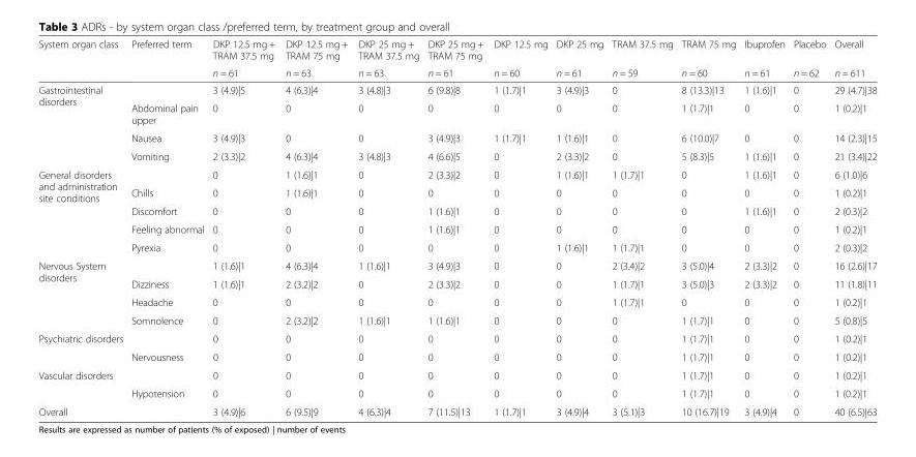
<table><thead><tr><td rowspan="2">System organ class</td><td rowspan="2">Preferred term</td><td rowspan="2">DKP 12.5 mg + TRAM 37.5 mg n = 61</td><td rowspan="2">DKP 12.5 mg + TRAM 75 mg n = 63</td><td rowspan="2">DKP 25 mg + TRAM 37.5 mg n = 63</td><td rowspan="2">DKP 25 mg + TRAM 75 mg n = 61</td><td rowspan="2">DKP 12.5 mg n = 60</td><td rowspan="2">DKP 25 mg n = 61</td><td rowspan="2">TRAM 37.5 mg n = 59</td><td rowspan="2">TRAM 75 mg n = 60</td><td rowspan="2">Ibuprofen n = 61</td><td rowspan="2">Placebo n = 62</td><td rowspan="2">Overall n = 611</td></tr><tr></tr></thead><tbody><tr><td rowspan="4">Gastrointestinal disorders</td><td></td><td>3 (4.9)|5</td><td>4 (6.3)|4</td><td>3 (4.8)|3</td><td>6 (9.8)|8</td><td>1 (1.7)|1</td><td>3 (4.9)|3</td><td>0</td><td>8 (13.3)|13</td><td>1 (1.6)|1</td><td>0</td><td>29 (4.7)|38</td></tr><tr><td>Abdominal pain upper</td><td>0</td><td>0</td><td>0</td><td>0</td><td>0</td><td>0</td><td>0</td><td>1 (1.7)|1</td><td>0</td><td>0</td><td>1 (0.2)|1</td></tr><tr><td>Nausea</td><td>3 (4.9)|3</td><td>0</td><td>0</td><td>3 (4.9)|3</td><td>1 (1.7)|1</td><td>1 (1.6)|1</td><td>0</td><td>6 (10.0)|7</td><td>0</td><td>0</td><td>14 (2.3)|15</td></tr><tr><td>Vomiting</td><td>2 (3.3)|2</td><td>4 (6.3)|4</td><td>3 (4.8)|3</td><td>4 (6.6)|5</td><td>0</td><td>2 (3.3)|2</td><td>0</td><td>5 (8.3)|5</td><td>1 (1.6)|1</td><td>0</td><td>21 (3.4)|22</td></tr><tr><td rowspan="5">General disorders and administration site conditions</td><td></td><td>0</td><td>1 (1.6)|1</td><td>0</td><td>2 (3.3)|2</td><td>0</td><td>1 (1.6)|1</td><td>1 (1.7)|1</td><td>0</td><td>1 (1.6)|1</td><td>0</td><td>6 (1.0)|6</td></tr><tr><td>Chills</td><td>0</td><td>1 (1.6)|1</td><td>0</td><td>0</td><td>0</td><td>0</td><td>0</td><td>0</td><td>0</td><td>0</td><td>1 (0.2)|1</td></tr><tr><td>Discomfort</td><td>0</td><td>0</td><td>0</td><td>1 (1.6)|1</td><td>0</td><td>0</td><td>0</td><td>0</td><td>1 (1.6)|1</td><td>0</td><td>2 (0.3)|2</td></tr><tr><td>Feeling abnormal</td><td>0</td><td>0</td><td>0</td><td>1 (1.6)|1</td><td>0</td><td>0</td><td>0</td><td>0</td><td>0</td><td>0</td><td>1 (0.2)|1</td></tr><tr><td>Pyrexia</td><td>0</td><td>0</td><td>0</td><td>0</td><td>0</td><td>1 (1.6)|1</td><td>1 (1.7)|1</td><td>0</td><td>0</td><td>0</td><td>2 (0.3)|2</td></tr><tr><td rowspan="4">Nervous System disorders</td><td></td><td>1 (1.6)|1</td><td>4 (6.3)|4</td><td>1 (1.6)|1</td><td>3 (4.9)|3</td><td>0</td><td>0</td><td>2 (3.4)|2</td><td>3 (5.0)|4</td><td>2 (3.3)|2</td><td>0</td><td>16 (2.6)|17</td></tr><tr><td>Dizziness</td><td>1 (1.6)|1</td><td>2 (3.2)|2</td><td>0</td><td>2 (3.3)|2</td><td>0</td><td>0</td><td>1 (1.7)|1</td><td>3 (5.0)|3</td><td>2 (3.3)|2</td><td>0</td><td>11 (1.8)|11</td></tr><tr><td>Headache</td><td>0</td><td>0</td><td>0</td><td>0</td><td>0</td><td>0</td><td>1 (1.7)|1</td><td>0</td><td>0</td><td>0</td><td>1 (0.2)|1</td></tr><tr><td>Somnolence</td><td>0</td><td>2 (3.2)|2</td><td>1 (1.6)|1</td><td>1 (1.6)|1</td><td>0</td><td>0</td><td>0</td><td>1 (1.7)|1</td><td>0</td><td>0</td><td>5 (0.8)|5</td></tr><tr><td rowspan="2">Psychiatric disorders</td><td></td><td>0</td><td>0</td><td>0</td><td>0</td><td>0</td><td>0</td><td>0</td><td>1 (1.7)|1</td><td>0</td><td>0</td><td>1 (0.2)|1</td></tr><tr><td>Nervousness</td><td>0</td><td>0</td><td>0</td><td>0</td><td>0</td><td>0</td><td>0</td><td>1 (1.7)|1</td><td>0</td><td>0</td><td>1 (0.2)|1</td></tr><tr><td rowspan="2">Vascular disorders</td><td></td><td>0</td><td>0</td><td>0</td><td>0</td><td>0</td><td>0</td><td>0</td><td>1 (1.7)|1</td><td>0</td><td>0</td><td>1 (0.2)|1</td></tr><tr><td>Hypotension</td><td>0</td><td>0</td><td>0</td><td>0</td><td>0</td><td>0</td><td>0</td><td>1 (1.7)|1</td><td>0</td><td>0</td><td>1 (0.2)|1</td></tr><tr><td>Overall</td><td></td><td>3 (4.9)|6</td><td>6 (9.5)|9</td><td>4 (6.3)|4</td><td>7 (11.5)|13</td><td>1 (1.7)|1</td><td>3 (4.9)|4</td><td>3 (5.1)|3</td><td>10 (16.7)|19</td><td>3 (4.9)|4</td><td>0</td><td>40 (6.5)|63</td></tr></tbody></table>